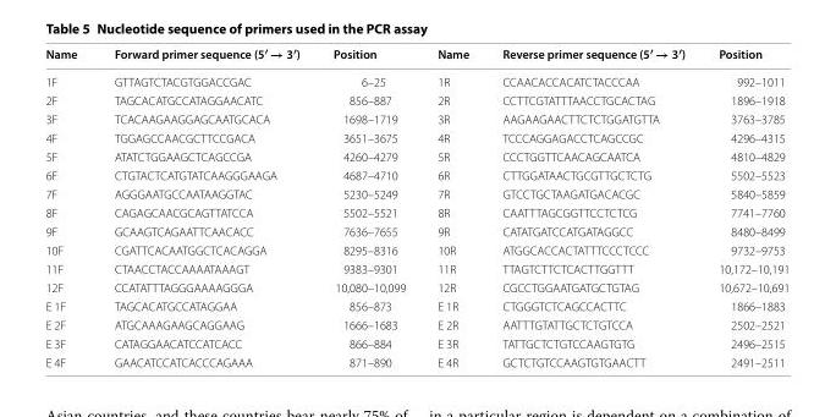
<table><thead><tr><td>Name</td><td>Forward primer sequence (5′ → 3′)</td><td>Position</td><td>Name</td><td>Reverse primer sequence (5′ → 3′)</td><td>Position</td></tr></thead><tbody><tr><td>1F</td><td>GTTAGTCTACGTGGACCGAC</td><td>6–25</td><td>1R</td><td>CCAACACCACATCTACCCAA</td><td>992–1011</td></tr><tr><td>2F</td><td>TAGCACATGCCATAGGAACATC</td><td>856–887</td><td>2R</td><td>CCTTCGTATTTAACCTGCACTAG</td><td>1896–1918</td></tr><tr><td>3F</td><td>TCACAAGAAGGAGCAATGCACA</td><td>1698–1719</td><td>3R</td><td>AAGAAGAACTTCTCTGGATGTTA</td><td>3763–3785</td></tr><tr><td>4F</td><td>TGGAGCCAACGCTTCCGACA</td><td>3651–3675</td><td>4R</td><td>TCCCAGGAGACCTCAGCCGC</td><td>4296–4315</td></tr><tr><td>5F</td><td>ATATCTGGAAGCTCAGCCGA</td><td>4260–4279</td><td>5R</td><td>CCCTGGTTCAACAGCAATCA</td><td>4810–4829</td></tr><tr><td>6F</td><td>CTGTACTCATGTATCAAGGGAAGA</td><td>4687–4710</td><td>6R</td><td>CTTGGATAACTGCGTTGCTCTG</td><td>5502–5523</td></tr><tr><td>7F</td><td>AGGGAATGCCAATAAGGTAC</td><td>5230–5249</td><td>7R</td><td>GTCCTGCTAAGATGACACGC</td><td>5840–5859</td></tr><tr><td>8F</td><td>CAGAGCAACGCAGTTATCCA</td><td>5502–5521</td><td>8R</td><td>CAATTTAGCGGTTCCTCTCG</td><td>7741–7760</td></tr><tr><td>9F</td><td>GCAAGTCAGAATTCAACACC</td><td>7636–7655</td><td>9R</td><td>CATATGATCCATGATAGGCC</td><td>8480–8499</td></tr><tr><td>10F</td><td>CGATTCACAATGGCTCACAGGA</td><td>8295–8316</td><td>10R</td><td>ATGGCACCACTATTTCCCTCCC</td><td>9732–9753</td></tr><tr><td>11F</td><td>CTAACCTACCAAAATAAAGT</td><td>9383–9301</td><td>11R</td><td>TTAGTCTTCTCACTTGGTTT</td><td>10,172–10,191</td></tr><tr><td>12F</td><td>CCATATTTAGGGAAAAGGGA</td><td>10,080–10,099</td><td>12R</td><td>CGCCTGGAATGATGCTGTAG</td><td>10,672–10,691</td></tr><tr><td>E 1F</td><td>TAGCACATGCCATAGGAA</td><td>856–873</td><td>E 1R</td><td>CTGGGTCTCAGCCACTTC</td><td>1866–1883</td></tr><tr><td>E 2F</td><td>ATGCAAAGAAGCAGGAAG</td><td>1666–1683</td><td>E 2R</td><td>AATTTGTATTGCTCTGTCCA</td><td>2502–2521</td></tr><tr><td>E 3F</td><td>CATAGGAACATCCATCACC</td><td>866–884</td><td>E 3R</td><td>TATTGCTCTGTCCAAGTGTG</td><td>2496–2515</td></tr><tr><td>E 4F</td><td>GAACATCCATCACCCAGAAA</td><td>871–890</td><td>E 4R</td><td>GCTCTGTCCAAGTGTGAACTT</td><td>2491–2511</td></tr></tbody></table>